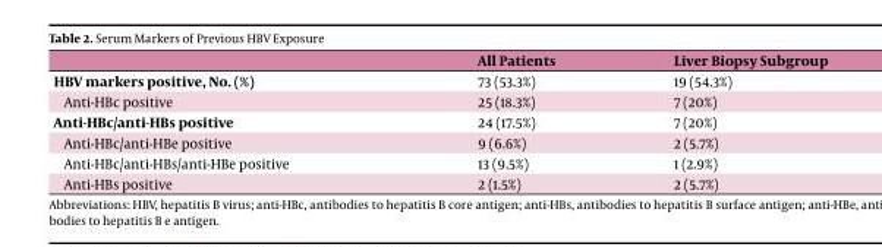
<table><thead><tr><td></td><td>All Patients</td><td>Liver Biopsy Subgroup</td></tr></thead><tbody><tr><td>HBV markers positive, No. (%)</td><td>73 (53.3%)</td><td>19 (54.3%)</td></tr><tr><td>Anti-HBc positive</td><td>25 (18.3%)</td><td>7 (20%)</td></tr><tr><td>Anti-HBc/anti-HBs positive</td><td>24 (17.5%)</td><td>7 (20%)</td></tr><tr><td>Anti-HBc/anti-HBe positive</td><td>9 (6.6%)</td><td>2 (5.7%)</td></tr><tr><td>Anti-HBc/anti-HBs/anti-HBe positive</td><td>13 (9.5%)</td><td>1 (2.9%)</td></tr><tr><td>Anti-HBs positive</td><td>2 (1.5%)</td><td>2 (5.7%)</td></tr></tbody></table>